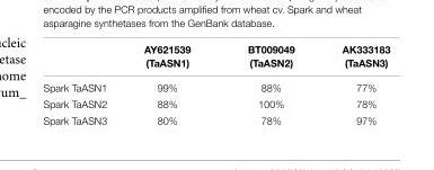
<table><thead><tr><td></td><td>AY621539 (TaASN1)</td><td>BT009049 (TaASN2)</td><td>AK333183 (TaASN3)</td></tr></thead><tbody><tr><td>Spark TaASN1</td><td>99%</td><td>88%</td><td>77%</td></tr><tr><td>Spark TaASN2</td><td>88%</td><td>100%</td><td>78%</td></tr><tr><td>Spark TaASN3</td><td>80%</td><td>78%</td><td>97%</td></tr></tbody></table>